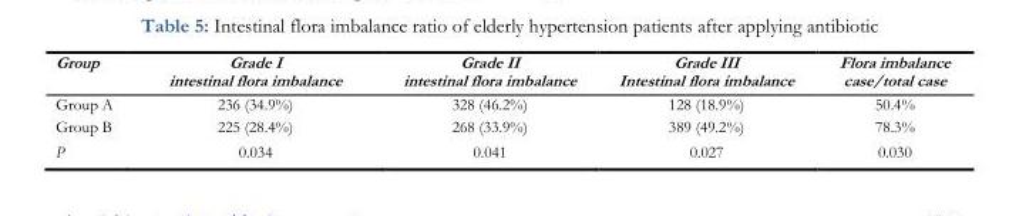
<table><thead><tr><td>Group</td><td>Grade I intestinal flora imbalance</td><td>Grade II intestinal flora imbalance</td><td>Grade III Intestinal flora imbalance</td><td>Flora imbalance case/total case</td></tr></thead><tbody><tr><td>Group A</td><td>236 (34.9%)</td><td>328 (46.2%)</td><td>128 (18.9%)</td><td>50.4%</td></tr><tr><td>Group B</td><td>225 (28.4%)</td><td>268 (33.9%)</td><td>389 (49.2%)</td><td>78.3%</td></tr><tr><td>P</td><td>0.034</td><td>0.041</td><td>0.027</td><td>0.030</td></tr></tbody></table>